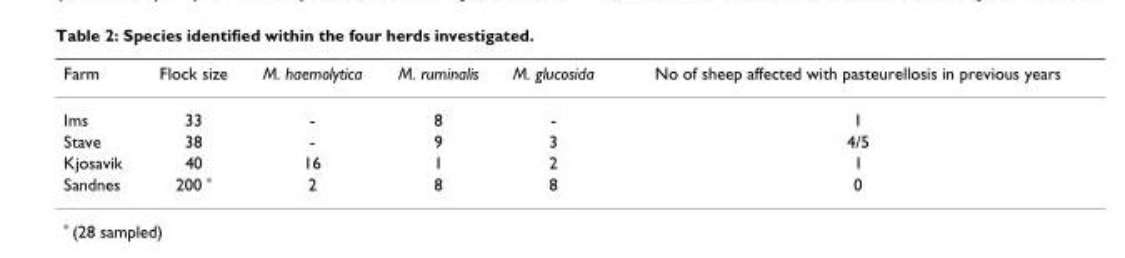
<table><thead><tr><td>Farm</td><td>Flock size</td><td>M. haemolytica</td><td>M. ruminalis</td><td>M. glucosida</td><td>No of sheep affected with pasteurellosis in previous years</td></tr></thead><tbody><tr><td>Ims</td><td>33</td><td>-</td><td>8</td><td>-</td><td>1</td></tr><tr><td>Stave</td><td>38</td><td>-</td><td>9</td><td>3</td><td>4/5</td></tr><tr><td>Kjosavik</td><td>40</td><td>16</td><td>1</td><td>2</td><td>1</td></tr><tr><td>Sandnes</td><td>200 *</td><td>2</td><td>8</td><td>8</td><td>0</td></tr></tbody></table>